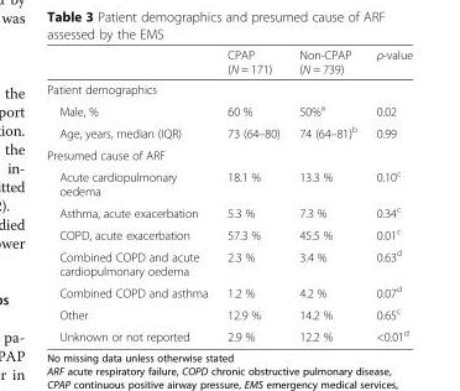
<table><thead><tr><td></td><td>CPAP (N = 171)</td><td>Non-CPAP (N = 739)</td><td>ρ-value</td></tr></thead><tbody><tr><td colspan="4">Patient demographics</td></tr><tr><td>Male, %</td><td>60 %</td><td>50%<sup>a</sup></td><td>0.02</td></tr><tr><td>Age, years, median (IQR)</td><td>73 (64–80)</td><td>74 (64–81)<sup>b</sup></td><td>0.99</td></tr><tr><td colspan="4">Presumed cause of ARF</td></tr><tr><td>Acute cardiopulmonary oedema</td><td>18.1 %</td><td>13.3 %</td><td>0.10<sup>c</sup></td></tr><tr><td>Asthma, acute exacerbation</td><td>5.3 %</td><td>7.3 %</td><td>0.34<sup>c</sup></td></tr><tr><td>COPD, acute exacerbation</td><td>57.3 %</td><td>45.5 %</td><td>0.01<sup>c</sup></td></tr><tr><td>Combined COPD and acute cardiopulmonary oedema</td><td>2.3 %</td><td>3.4 %</td><td>0.63<sup>d</sup></td></tr><tr><td>Combined COPD and asthma</td><td>1.2 %</td><td>4.2 %</td><td>0.07<sup>d</sup></td></tr><tr><td>Other</td><td>12.9 %</td><td>14.2 %</td><td>0.65<sup>c</sup></td></tr><tr><td>Unknown or not reported</td><td>2.9 %</td><td>12.2 %</td><td>&lt;0.01<sup>d</sup></td></tr></tbody></table>